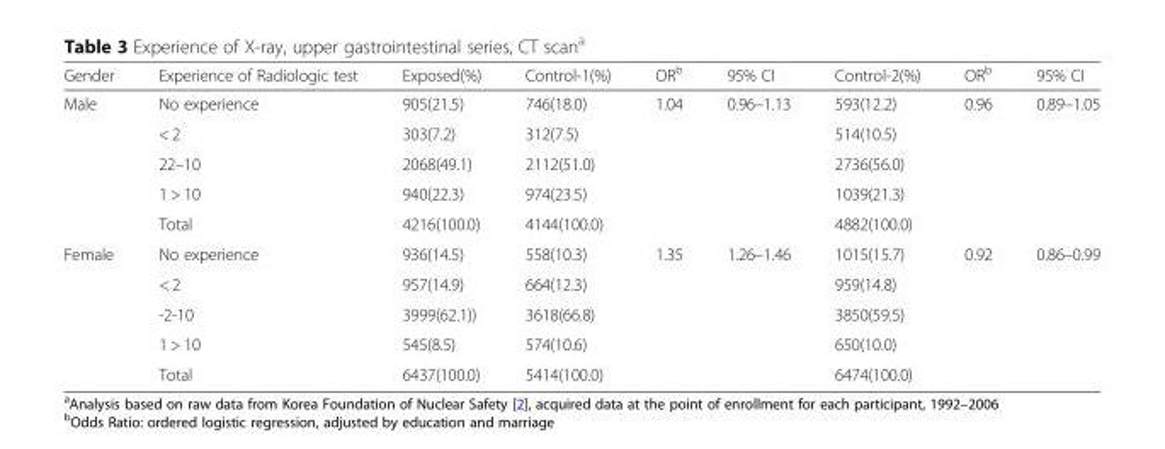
<table><thead><tr><td>Gender</td><td>Experience of Radiologic test</td><td>Exposed(%)</td><td>Control-1(%)</td><td>OR<sup>b</sup></td><td>95% CI</td><td>Control-2(%)</td><td>OR<sup>b</sup></td><td>95% CI</td></tr></thead><tbody><tr><td rowspan="5">Male</td><td>No experience</td><td>905(21.5)</td><td>746(18.0)</td><td rowspan="4">1.04</td><td rowspan="4">0.96–1.13</td><td>593(12.2)</td><td rowspan="4">0.96</td><td rowspan="4">0.89–1.05</td></tr><tr><td>&lt; 2</td><td>303(7.2)</td><td>312(7.5)</td><td>514(10.5)</td></tr><tr><td>22–10</td><td>2068(49.1)</td><td>2112(51.0)</td><td>2736(56.0)</td></tr><tr><td>1 &gt; 10</td><td>940(22.3)</td><td>974(23.5)</td><td>1039(21.3)</td></tr><tr><td>Total</td><td>4216(100.0)</td><td>4144(100.0)</td><td></td><td></td><td>4882(100.0)</td><td></td><td></td></tr><tr><td rowspan="5">Female</td><td>No experience</td><td>936(14.5)</td><td>558(10.3)</td><td rowspan="4">1.35</td><td rowspan="4">1.26–1.46</td><td>1015(15.7)</td><td rowspan="4">0.92</td><td rowspan="4">0.86–0.99</td></tr><tr><td>&lt; 2</td><td>957(14.9)</td><td>664(12.3)</td><td>959(14.8)</td></tr><tr><td>-2-10</td><td>3999(62.1))</td><td>3618(66.8)</td><td>3850(59.5)</td></tr><tr><td>1 &gt; 10</td><td>545(8.5)</td><td>574(10.6)</td><td>650(10.0)</td></tr><tr><td>Total</td><td>6437(100.0)</td><td>5414(100.0)</td><td></td><td></td><td>6474(100.0)</td><td></td><td></td></tr></tbody></table>